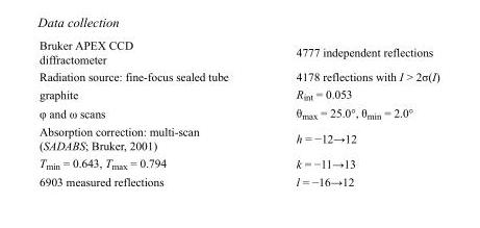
<table><tbody><tr><td>Bruker APEX CCD diffractometer</td><td>4777 independent reflections</td></tr><tr><td>Radiation source: fine-focus sealed tube</td><td>4178 reflections with I &gt; 2σ(I)</td></tr><tr><td>graphite</td><td>R<sub>int</sub> = 0.053</td></tr><tr><td>φ and ω scans</td><td>θ<sub>max</sub> = 25.0°, θ<sub>min</sub> = 2.0°</td></tr><tr><td>Absorption correction: multi-scan (SADABS; Bruker, 2001)</td><td>h = −12→12</td></tr><tr><td>T<sub>min</sub> = 0.643, T<sub>max</sub> = 0.794</td><td>k = −11→13</td></tr><tr><td>6903 measured reflections</td><td>l = −16→12</td></tr></tbody></table>